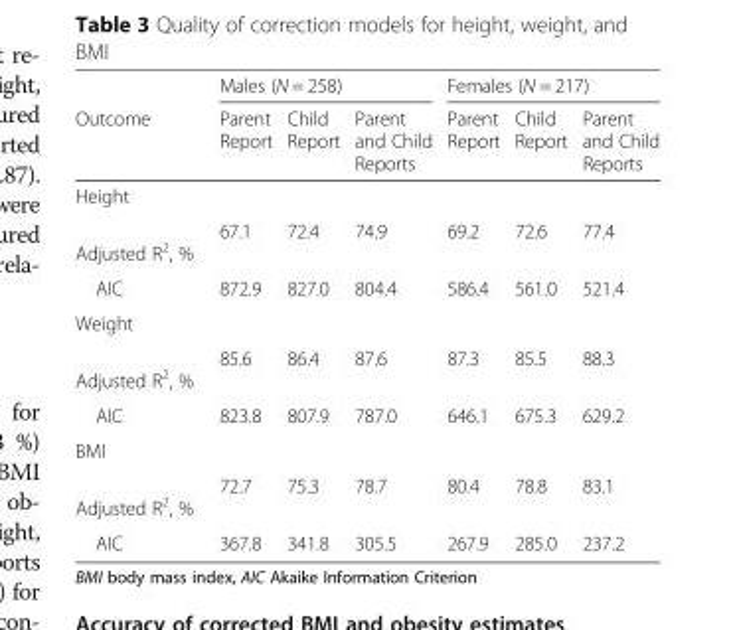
<table><thead><tr><td rowspan="2">Outcome</td><td colspan="3">Males (N = 258)</td><td colspan="3">Females (N = 217)</td></tr><tr><td>Parent Report</td><td>Child Report</td><td>Parent and Child Reports</td><td>Parent Report</td><td>Child Report</td><td>Parent and Child Reports</td></tr></thead><tbody><tr><td colspan="7">Height</td></tr><tr><td>Adjusted R<sup>2</sup>, %</td><td>67.1</td><td>72.4</td><td>74.9</td><td>69.2</td><td>72.6</td><td>77.4</td></tr><tr><td>AIC</td><td>872.9</td><td>827.0</td><td>804.4</td><td>586.4</td><td>561.0</td><td>521.4</td></tr><tr><td colspan="7">Weight</td></tr><tr><td>Adjusted R<sup>2</sup>, %</td><td>85.6</td><td>86.4</td><td>87.6</td><td>87.3</td><td>85.5</td><td>88.3</td></tr><tr><td>AIC</td><td>823.8</td><td>807.9</td><td>787.0</td><td>646.1</td><td>675.3</td><td>629.2</td></tr><tr><td colspan="7">BMI</td></tr><tr><td>Adjusted R<sup>2</sup>, %</td><td>72.7</td><td>75.3</td><td>78.7</td><td>80.4</td><td>78.8</td><td>83.1</td></tr><tr><td>AIC</td><td>367.8</td><td>341.8</td><td>305.5</td><td>267.9</td><td>285.0</td><td>237.2</td></tr></tbody></table>